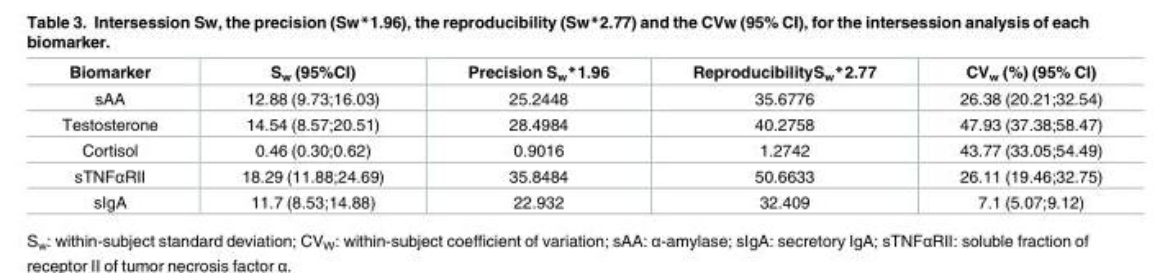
<table><thead><tr><td>Biomarker</td><td>S<sub>w</sub> (95%CI)</td><td>Precision S<sub>w</sub>*1.96</td><td>ReproducibilityS<sub>w</sub>*2.77</td><td>CV<sub>w</sub> (%) (95% CI)</td></tr></thead><tbody><tr><td>sAA</td><td>12.88 (9.73;16.03)</td><td>25.2448</td><td>35.6776</td><td>26.38 (20.21;32.54)</td></tr><tr><td>Testosterone</td><td>14.54 (8.57;20.51)</td><td>28.4984</td><td>40.2758</td><td>47.93 (37.38;58.47)</td></tr><tr><td>Cortisol</td><td>0.46 (0.30;0.62)</td><td>0.9016</td><td>1.2742</td><td>43.77 (33.05;54.49)</td></tr><tr><td>sTNFαRII</td><td>18.29 (11.88;24.69)</td><td>35.8484</td><td>50.6633</td><td>26.11 (19.46;32.75)</td></tr><tr><td>sIgA</td><td>11.7 (8.53;14.88)</td><td>22.932</td><td>32.409</td><td>7.1 (5.07;9.12)</td></tr></tbody></table>